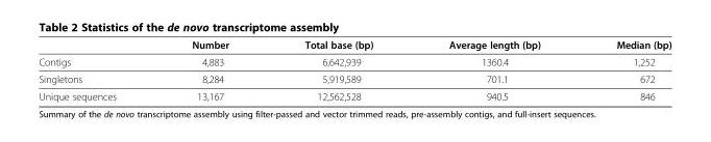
<table><thead><tr><td></td><td>Number</td><td>Total base (bp)</td><td>Average length (bp)</td><td>Median (bp)</td></tr></thead><tbody><tr><td>Contigs</td><td>4,883</td><td>6,642,939</td><td>1360.4</td><td>1,252</td></tr><tr><td>Singletons</td><td>8,284</td><td>5,919,589</td><td>701.1</td><td>672</td></tr><tr><td>Unique sequences</td><td>13,167</td><td>12,562,528</td><td>940.5</td><td>846</td></tr></tbody></table>